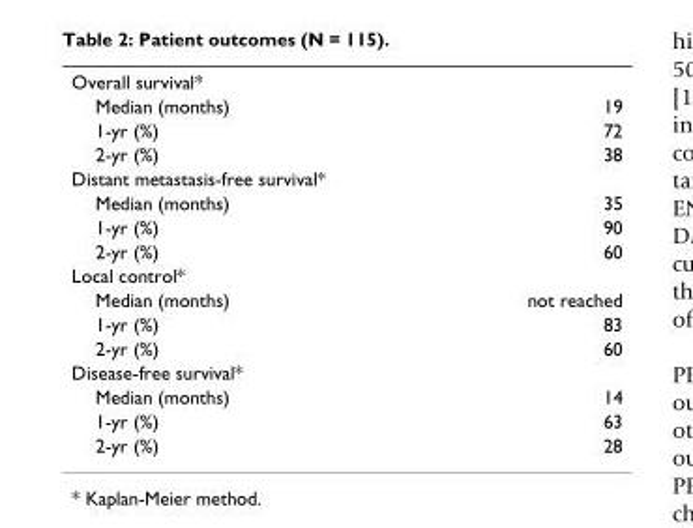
<table><tbody><tr><td colspan="2">Overall survival*</td></tr><tr><td>Median (months)</td><td>19</td></tr><tr><td>1-yr (%)</td><td>72</td></tr><tr><td>2-yr (%)</td><td>38</td></tr><tr><td colspan="2">Distant metastasis-free survival*</td></tr><tr><td>Median (months)</td><td>35</td></tr><tr><td>1-yr (%)</td><td>90</td></tr><tr><td>2-yr (%)</td><td>60</td></tr><tr><td colspan="2">Local control*</td></tr><tr><td>Median (months)</td><td>not reached</td></tr><tr><td>1-yr (%)</td><td>83</td></tr><tr><td>2-yr (%)</td><td>60</td></tr><tr><td colspan="2">Disease-free survival*</td></tr><tr><td>Median (months)</td><td>14</td></tr><tr><td>1-yr (%)</td><td>63</td></tr><tr><td>2-yr (%)</td><td>28</td></tr></tbody></table>